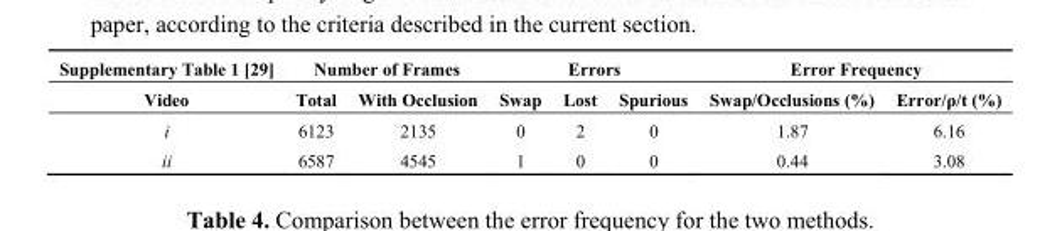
<table><thead><tr><td rowspan="2">Supplementary Table 1 [29] Video</td><td colspan="2">Number of Frames</td><td colspan="3">Errors</td><td colspan="2">Error Frequency</td></tr><tr><td>Total</td><td>With Occlusion</td><td>Swap</td><td>Lost</td><td>Spurious</td><td>Swap/Occlusions (%)</td><td>Error/ρ/t (%)</td></tr></thead><tbody><tr><td>i</td><td>6123</td><td>2135</td><td>0</td><td>2</td><td>0</td><td>1.87</td><td>6.16</td></tr><tr><td>ii</td><td>6587</td><td>4545</td><td>1</td><td>0</td><td>0</td><td>0.44</td><td>3.08</td></tr></tbody></table>